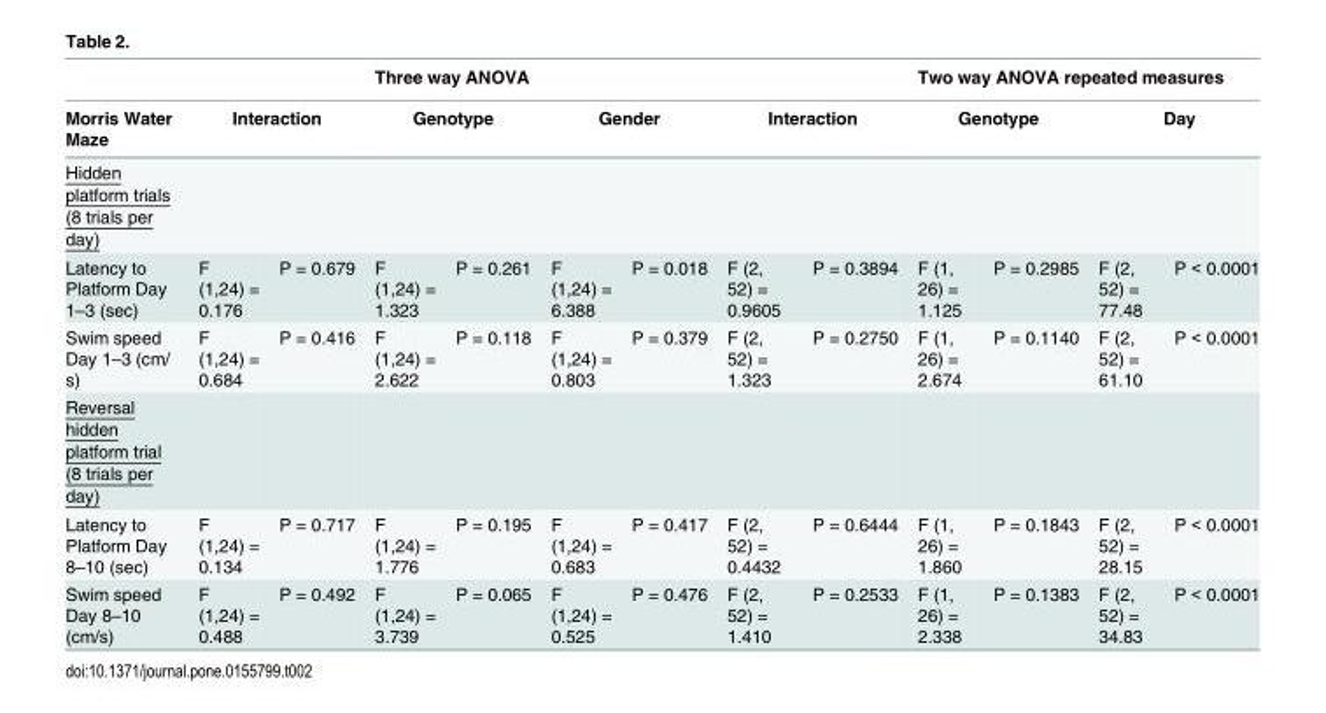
<table><thead><tr><td rowspan="3">Morris Water Maze Hidden platform trials (8 trials per day)</td><td></td><td></td><td rowspan="2" colspan="2">Three way ANOVA Genotype</td><td></td><td></td><td></td><td></td><td colspan="4">Two way ANOVA repeated measures</td></tr><tr><td colspan="2">Interaction</td><td colspan="2">Gender</td><td colspan="2">Interaction</td><td colspan="2">Genotype</td><td colspan="2">Day</td></tr><tr><td></td><td></td><td></td><td></td><td></td><td></td><td></td><td></td><td></td><td></td><td></td><td></td></tr></thead><tbody><tr><td>Latency to Platform Day 1–3 (sec)</td><td>F (1,24) = 0.176</td><td>P = 0.679</td><td>F (1,24) = 1.323</td><td>P = 0.261</td><td>F (1,24) = 6.388</td><td>P = 0.018</td><td>F (2, 52) = 0.9605</td><td>P = 0.3894</td><td>F (1, 26) = 1.125</td><td>P = 0.2985</td><td>F (2, 52) = 77.48</td><td>P &lt; 0.0001</td></tr><tr><td>Swim speed Day 1–3 (cm/ s)</td><td>F (1,24) = 0.684</td><td>P = 0.416</td><td>F (1,24) = 2.622</td><td>P = 0.118</td><td>F (1,24) = 0.803</td><td>P = 0.379</td><td>F (2, 52) = 1.323</td><td>P = 0.2750</td><td>F (1, 26) = 2.674</td><td>P = 0.1140</td><td>F (2, 52) = 61.10</td><td>P &lt; 0.0001</td></tr><tr><td colspan="13">Reversal hidden platform trial (8 trials per day)</td></tr><tr><td>Latency to Platform Day 8–10 (sec)</td><td>F (1,24) = 0.134</td><td>P = 0.717</td><td>F (1,24) = 1.776</td><td>P = 0.195</td><td>F (1,24) = 0.683</td><td>P = 0.417</td><td>F (2, 52) = 0.4432</td><td>P = 0.6444</td><td>F (1, 26) = 1.860</td><td>P = 0.1843</td><td>F (2, 52) = 28.15</td><td>P &lt; 0.0001</td></tr><tr><td>Swim speed Day 8–10 (cm/s)</td><td>F (1,24) = 0.488</td><td>P = 0.492</td><td>F (1,24) = 3.739</td><td>P = 0.065</td><td>F (1,24) = 0.525</td><td>P = 0.476</td><td>F (2, 52) = 1.410</td><td>P = 0.2533</td><td>F (1, 26) = 2.338</td><td>P = 0.1383</td><td>F (2, 52) = 34.83</td><td>P &lt; 0.0001</td></tr></tbody></table>